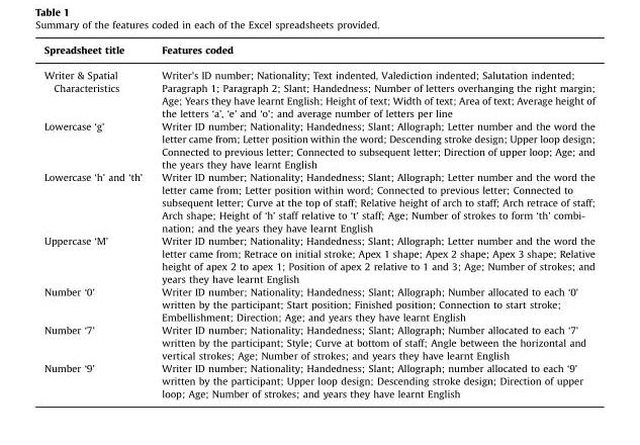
<table><thead><tr><td>Spreadsheet title</td><td>Features coded</td></tr></thead><tbody><tr><td>Writer &amp; Spatial Characteristics</td><td>Writer&#x27;s ID number; Nationality; Text indented, Valediction indented; Salutation indented; Paragraph 1; Paragraph 2; Slant; Handedness; Number of letters overhanging the right margin; Age; Years they have learnt English; Height of text; Width of text; Area of text; Average height of the letters ‘a’, ‘e’ and ‘o’; and average number of letters per line</td></tr><tr><td>Lowercase ‘g’</td><td>Writer ID number; Nationality; Handedness; Slant; Allograph; Letter number and the word the letter came from; Letter position within the word; Descending stroke design; Upper loop design; Connected to previous letter; Connected to subsequent letter; Direction of upper loop; Age; and the years they have learnt English</td></tr><tr><td>Lowercase ‘h’ and ‘th’</td><td>Writer ID number; Nationality; Handedness; Slant; Allograph; Letter number and the word the letter came from; Letter position within word; Connected to previous letter; Connected to subsequent letter; Curve at the top of staff; Relative height of arch to staff; Arch retrace of staff; Arch shape; Height of ‘h’ staff relative to ‘t’ staff; Age; Number of strokes to form ‘th’ combi- nation; and the years they have learnt English</td></tr><tr><td>Uppercase ‘M’</td><td>Writer ID number; Nationality; Handedness; Slant; Allograph; Letter number and the word the letter came from; Retrace on initial stroke; Apex 1 shape; Apex 2 shape; Apex 3 shape; Relative height of apex 2 to apex 1; Position of apex 2 relative to 1 and 3; Age; Number of strokes; and years they have learnt English</td></tr><tr><td>Number ‘0’</td><td>Writer ID number; Nationality; Handedness; Slant; Allograph; Number allocated to each ‘0’ written by the participant; Start position; Finished position; Connection to start stroke; Embellishment; Direction; Age; and years they have learnt English</td></tr><tr><td>Number ‘7’</td><td>Writer ID number; Nationality; Handedness; Slant; Allograph; Number allocated to each ‘7’ written by the participant; Style; Curve at bottom of staff; Angle between the horizontal and vertical strokes; Age; Number of strokes; and years they have learnt English</td></tr><tr><td>Number ‘9’</td><td>Writer ID number; Nationality; Handedness; Slant; Allograph; number allocated to each ‘9’ written by the participant; Upper loop design; Descending stroke design; Direction of upper loop; Age; Number of strokes; and years they have learnt English</td></tr></tbody></table>